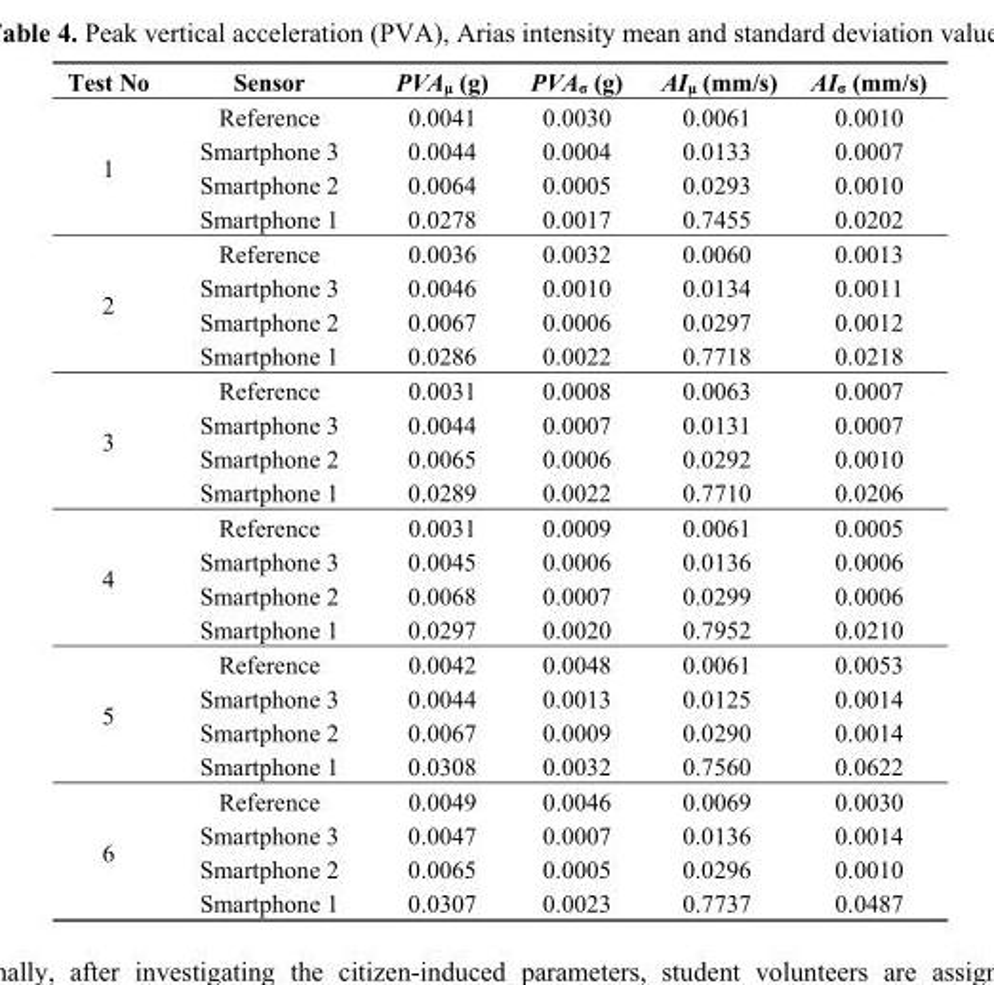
<table><thead><tr><td>Test No</td><td>Sensor</td><td>PVA<sub>μ</sub> (g)</td><td>PVA<sub>σ</sub> (g)</td><td>AI<sub>μ</sub> (mm/s)</td><td>AI<sub>σ</sub> (mm/s)</td></tr></thead><tbody><tr><td rowspan="4">1</td><td>Reference</td><td>0.0041</td><td>0.0030</td><td>0.0061</td><td>0.0010</td></tr><tr><td>Smartphone 3</td><td>0.0044</td><td>0.0004</td><td>0.0133</td><td>0.0007</td></tr><tr><td>Smartphone 2</td><td>0.0064</td><td>0.0005</td><td>0.0293</td><td>0.0010</td></tr><tr><td>Smartphone 1</td><td>0.0278</td><td>0.0017</td><td>0.7455</td><td>0.0202</td></tr><tr><td rowspan="4">2</td><td>Reference</td><td>0.0036</td><td>0.0032</td><td>0.0060</td><td>0.0013</td></tr><tr><td>Smartphone 3</td><td>0.0046</td><td>0.0010</td><td>0.0134</td><td>0.0011</td></tr><tr><td>Smartphone 2</td><td>0.0067</td><td>0.0006</td><td>0.0297</td><td>0.0012</td></tr><tr><td>Smartphone 1</td><td>0.0286</td><td>0.0022</td><td>0.7718</td><td>0.0218</td></tr><tr><td rowspan="4">3</td><td>Reference</td><td>0.0031</td><td>0.0008</td><td>0.0063</td><td>0.0007</td></tr><tr><td>Smartphone 3</td><td>0.0044</td><td>0.0007</td><td>0.0131</td><td>0.0007</td></tr><tr><td>Smartphone 2</td><td>0.0065</td><td>0.0006</td><td>0.0292</td><td>0.0010</td></tr><tr><td>Smartphone 1</td><td>0.0289</td><td>0.0022</td><td>0.7710</td><td>0.0206</td></tr><tr><td rowspan="4">4</td><td>Reference</td><td>0.0031</td><td>0.0009</td><td>0.0061</td><td>0.0005</td></tr><tr><td>Smartphone 3</td><td>0.0045</td><td>0.0006</td><td>0.0136</td><td>0.0006</td></tr><tr><td>Smartphone 2</td><td>0.0068</td><td>0.0007</td><td>0.0299</td><td>0.0006</td></tr><tr><td>Smartphone 1</td><td>0.0297</td><td>0.0020</td><td>0.7952</td><td>0.0210</td></tr><tr><td rowspan="4">5</td><td>Reference</td><td>0.0042</td><td>0.0048</td><td>0.0061</td><td>0.0053</td></tr><tr><td>Smartphone 3</td><td>0.0044</td><td>0.0013</td><td>0.0125</td><td>0.0014</td></tr><tr><td>Smartphone 2</td><td>0.0067</td><td>0.0009</td><td>0.0290</td><td>0.0014</td></tr><tr><td>Smartphone 1</td><td>0.0308</td><td>0.0032</td><td>0.7560</td><td>0.0622</td></tr><tr><td rowspan="4">6</td><td>Reference</td><td>0.0049</td><td>0.0046</td><td>0.0069</td><td>0.0030</td></tr><tr><td>Smartphone 3</td><td>0.0047</td><td>0.0007</td><td>0.0136</td><td>0.0014</td></tr><tr><td>Smartphone 2</td><td>0.0065</td><td>0.0005</td><td>0.0296</td><td>0.0010</td></tr><tr><td>Smartphone 1</td><td>0.0307</td><td>0.0023</td><td>0.7737</td><td>0.0487</td></tr></tbody></table>